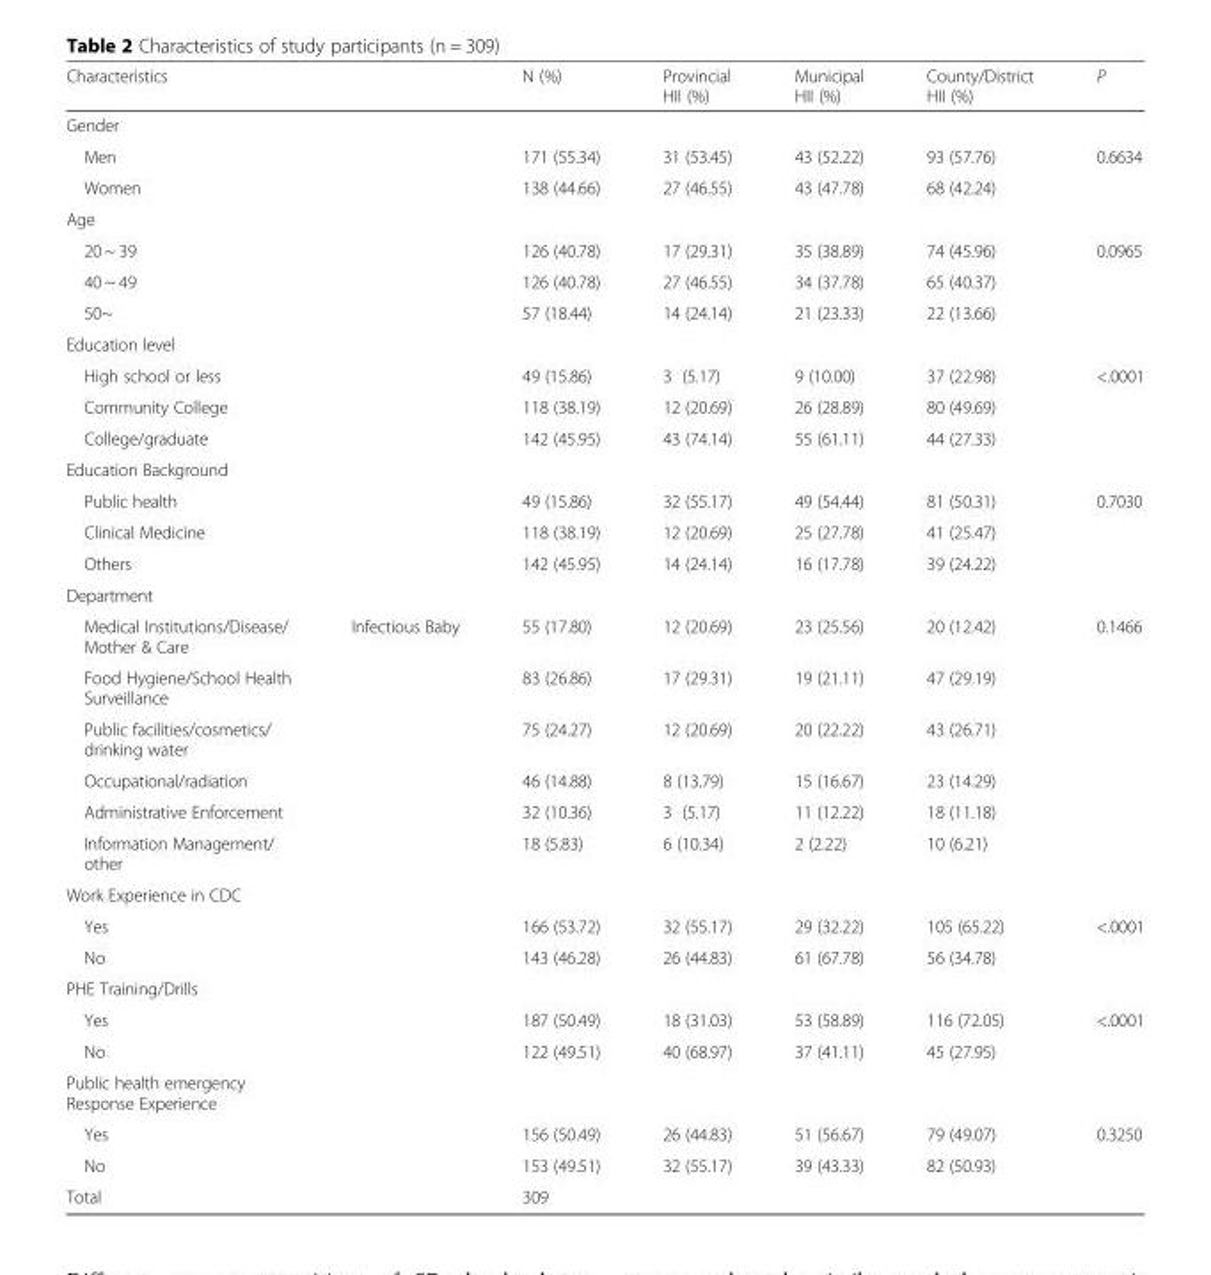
<table><thead><tr><td colspan="2">Characteristics</td><td>N (%)</td><td>Provincial HII (%)</td><td>Municipal HII (%)</td><td>County/District HII (%)</td><td>P</td></tr></thead><tbody><tr><td colspan="7">Gender</td></tr><tr><td colspan="2">Men</td><td>171 (55.34)</td><td>31 (53.45)</td><td>43 (52.22)</td><td>93 (57.76)</td><td>0.6634</td></tr><tr><td colspan="2">Women</td><td>138 (44.66)</td><td>27 (46.55)</td><td>43 (47.78)</td><td>68 (42.24)</td><td></td></tr><tr><td colspan="7">Age</td></tr><tr><td colspan="2">20 ~ 39</td><td>126 (40.78)</td><td>17 (29.31)</td><td>35 (38.89)</td><td>74 (45.96)</td><td>0.0965</td></tr><tr><td colspan="2">40 ~ 49</td><td>126 (40.78)</td><td>27 (46.55)</td><td>34 (37.78)</td><td>65 (40.37)</td><td></td></tr><tr><td colspan="2">50~</td><td>57 (18.44)</td><td>14 (24.14)</td><td>21 (23.33)</td><td>22 (13.66)</td><td></td></tr><tr><td colspan="7">Education level</td></tr><tr><td colspan="2">High school or less</td><td>49 (15.86)</td><td>3 (5.17)</td><td>9 (10.00)</td><td>37 (22.98)</td><td>&lt;.0001</td></tr><tr><td colspan="2">Community College</td><td>118 (38.19)</td><td>12 (20.69)</td><td>26 (28.89)</td><td>80 (49.69)</td><td></td></tr><tr><td colspan="2">College/graduate</td><td>142 (45.95)</td><td>43 (74.14)</td><td>55 (61.11)</td><td>44 (27.33)</td><td></td></tr><tr><td colspan="7">Education Background</td></tr><tr><td colspan="2">Public health</td><td>49 (15.86)</td><td>32 (55.17)</td><td>49 (54.44)</td><td>81 (50.31)</td><td>0.7030</td></tr><tr><td colspan="2">Clinical Medicine</td><td>118 (38.19)</td><td>12 (20.69)</td><td>25 (27.78)</td><td>41 (25.47)</td><td></td></tr><tr><td colspan="2">Others</td><td>142 (45.95)</td><td>14 (24.14)</td><td>16 (17.78)</td><td>39 (24.22)</td><td></td></tr><tr><td colspan="7">Department</td></tr><tr><td>Medical Institutions/Disease/ Mother &amp; Care</td><td>Infectious Baby</td><td>55 (17.80)</td><td>12 (20.69)</td><td>23 (25.56)</td><td>20 (12.42)</td><td>0.1466</td></tr><tr><td colspan="2">Food Hygiene/School Health Surveillance</td><td>83 (26.86)</td><td>17 (29.31)</td><td>19 (21.11)</td><td>47 (29.19)</td><td></td></tr><tr><td colspan="2">Public facilities/cosmetics/ drinking water</td><td>75 (24.27)</td><td>12 (20.69)</td><td>20 (22.22)</td><td>43 (26.71)</td><td></td></tr><tr><td colspan="2">Occupational/radiation</td><td>46 (14.88)</td><td>8 (13.79)</td><td>15 (16.67)</td><td>23 (14.29)</td><td></td></tr><tr><td colspan="2">Administrative Enforcement</td><td>32 (10.36)</td><td>3 (5.17)</td><td>11 (12.22)</td><td>18 (11.18)</td><td></td></tr><tr><td colspan="2">Information Management/ other</td><td>18 (5.83)</td><td>6 (10.34)</td><td>2 (2.22)</td><td>10 (6.21)</td><td></td></tr><tr><td colspan="7">Work Experience in CDC</td></tr><tr><td colspan="2">Yes</td><td>166 (53.72)</td><td>32 (55.17)</td><td>29 (32.22)</td><td>105 (65.22)</td><td>&lt;.0001</td></tr><tr><td colspan="2">No</td><td>143 (46.28)</td><td>26 (44.83)</td><td>61 (67.78)</td><td>56 (34.78)</td><td></td></tr><tr><td colspan="7">PHE Training/Drills</td></tr><tr><td colspan="2">Yes</td><td>187 (50.49)</td><td>18 (31.03)</td><td>53 (58.89)</td><td>116 (72.05)</td><td>&lt;.0001</td></tr><tr><td colspan="2">No</td><td>122 (49.51)</td><td>40 (68.97)</td><td>37 (41.11)</td><td>45 (27.95)</td><td></td></tr><tr><td colspan="7">Public health emergency Response Experience</td></tr><tr><td colspan="2">Yes</td><td>156 (50.49)</td><td>26 (44.83)</td><td>51 (56.67)</td><td>79 (49.07)</td><td>0.3250</td></tr><tr><td colspan="2">No</td><td>153 (49.51)</td><td>32 (55.17)</td><td>39 (43.33)</td><td>82 (50.93)</td><td></td></tr><tr><td colspan="2">Total</td><td>309</td><td></td><td></td><td></td><td></td></tr></tbody></table>